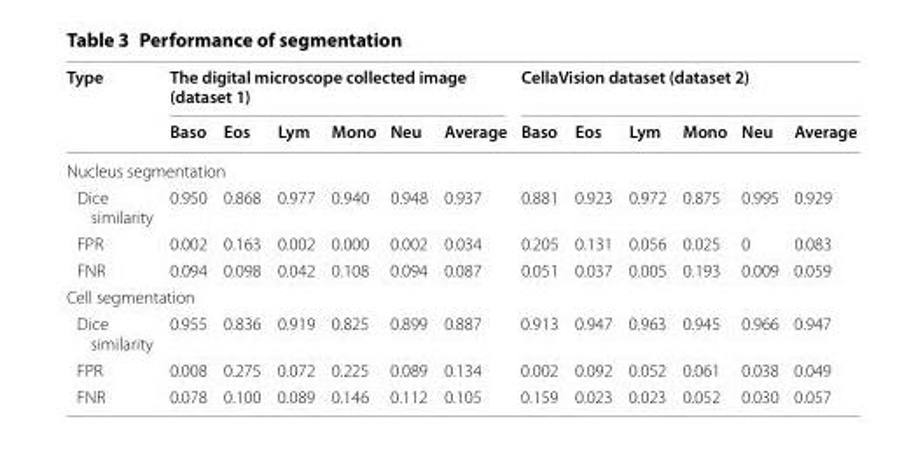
<table><thead><tr><td rowspan="2">Type</td><td colspan="6">The digital microscope collected image (dataset 1)</td><td colspan="6">CellaVision dataset (dataset 2)</td></tr><tr><td>Baso</td><td>Eos</td><td>Lym</td><td>Mono</td><td>Neu</td><td>Average</td><td>Baso</td><td>Eos</td><td>Lym</td><td>Mono</td><td>Neu</td><td>Average</td></tr></thead><tbody><tr><td colspan="13">Nucleus segmentation</td></tr><tr><td>Dice similarity</td><td>0.950</td><td>0.868</td><td>0.977</td><td>0.940</td><td>0.948</td><td>0.937</td><td>0.881</td><td>0.923</td><td>0.972</td><td>0.875</td><td>0.995</td><td>0.929</td></tr><tr><td>FPR</td><td>0.002</td><td>0.163</td><td>0.002</td><td>0.000</td><td>0.002</td><td>0.034</td><td>0.205</td><td>0.131</td><td>0.056</td><td>0.025</td><td>0</td><td>0.083</td></tr><tr><td>FNR</td><td>0.094</td><td>0.098</td><td>0.042</td><td>0.108</td><td>0.094</td><td>0.087</td><td>0.051</td><td>0.037</td><td>0.005</td><td>0.193</td><td>0.009</td><td>0.059</td></tr><tr><td colspan="13">Cell segmentation</td></tr><tr><td>Dice similarity</td><td>0.955</td><td>0.836</td><td>0.919</td><td>0.825</td><td>0.899</td><td>0.887</td><td>0.913</td><td>0.947</td><td>0.963</td><td>0.945</td><td>0.966</td><td>0.947</td></tr><tr><td>FPR</td><td>0.008</td><td>0.275</td><td>0.072</td><td>0.225</td><td>0.089</td><td>0.134</td><td>0.002</td><td>0.092</td><td>0.052</td><td>0.061</td><td>0.038</td><td>0.049</td></tr><tr><td>FNR</td><td>0.078</td><td>0.100</td><td>0.089</td><td>0.146</td><td>0.112</td><td>0.105</td><td>0.159</td><td>0.023</td><td>0.023</td><td>0.052</td><td>0.030</td><td>0.057</td></tr></tbody></table>